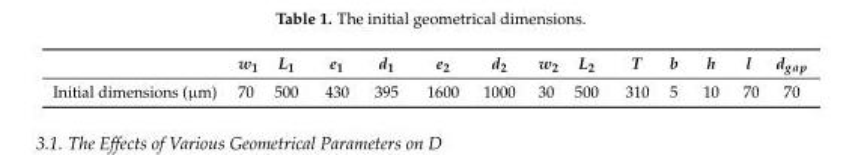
<table><thead><tr><td></td><td>w<sub>1</sub></td><td>L<sub>1</sub></td><td>e<sub>1</sub></td><td>d<sub>1</sub></td><td>e<sub>2</sub></td><td>d<sub>2</sub></td><td>w<sub>2</sub></td><td>L<sub>2</sub></td><td>T</td><td>b</td><td>h</td><td>l</td><td>d<sub>gap</sub></td></tr></thead><tbody><tr><td>Initial dimensions (µm)</td><td>70</td><td>500</td><td>430</td><td>395</td><td>1600</td><td>1000</td><td>30</td><td>500</td><td>310</td><td>5</td><td>10</td><td>70</td><td>70</td></tr></tbody></table>